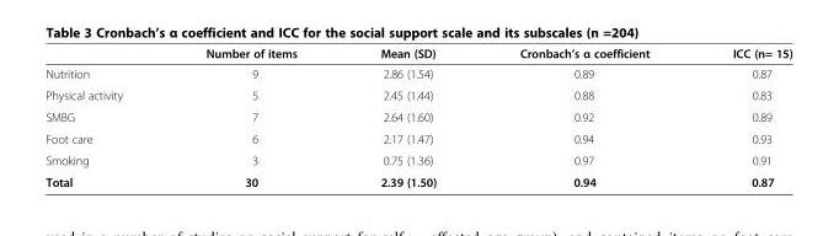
<table><thead><tr><td></td><td>Number of items</td><td>Mean (SD)</td><td>Cronbach’s α coefficient</td><td>ICC (n= 15)</td></tr></thead><tbody><tr><td>Nutrition</td><td>9</td><td>2.86 (1.54)</td><td>0.89</td><td>0.87</td></tr><tr><td>Physical activity</td><td>5</td><td>2.45 (1.44)</td><td>0.88</td><td>0.83</td></tr><tr><td>SMBG</td><td>7</td><td>2.64 (1.60)</td><td>0.92</td><td>0.89</td></tr><tr><td>Foot care</td><td>6</td><td>2.17 (1.47)</td><td>0.94</td><td>0.93</td></tr><tr><td>Smoking</td><td>3</td><td>0.75 (1.36)</td><td>0.97</td><td>0.91</td></tr><tr><td>Total</td><td>30</td><td>2.39 (1.50)</td><td>0.94</td><td>0.87</td></tr></tbody></table>